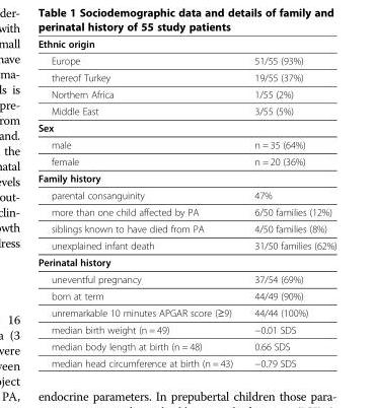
<table><tbody><tr><td colspan="2">Ethnic origin</td></tr><tr><td>Europe</td><td>51/55 (93%)</td></tr><tr><td>thereof Turkey</td><td>19/55 (37%)</td></tr><tr><td>Northern Africa</td><td>1/55 (2%)</td></tr><tr><td>Middle East</td><td>3/55 (5%)</td></tr><tr><td colspan="2">Sex</td></tr><tr><td>male</td><td>n = 35 (64%)</td></tr><tr><td>female</td><td>n = 20 (36%)</td></tr><tr><td colspan="2">Family history</td></tr><tr><td>parental consanguinity</td><td>47%</td></tr><tr><td>more than one child affected by PA</td><td>6/50 families (12%)</td></tr><tr><td>siblings known to have died from PA</td><td>4/50 families (8%)</td></tr><tr><td>unexplained infant death</td><td>31/50 families (62%)</td></tr><tr><td colspan="2">Perinatal history</td></tr><tr><td>uneventful pregnancy</td><td>37/54 (69%)</td></tr><tr><td>born at term</td><td>44/49 (90%)</td></tr><tr><td>unremarkable 10 minutes APGAR score (≥9)</td><td>44/44 (100%)</td></tr><tr><td>median birth weight (n = 49)</td><td>−0.01 SDS</td></tr><tr><td>median body length at birth (n = 48)</td><td>0.66 SDS</td></tr><tr><td>median head circumference at birth (n = 43)</td><td>−0.79 SDS</td></tr></tbody></table>